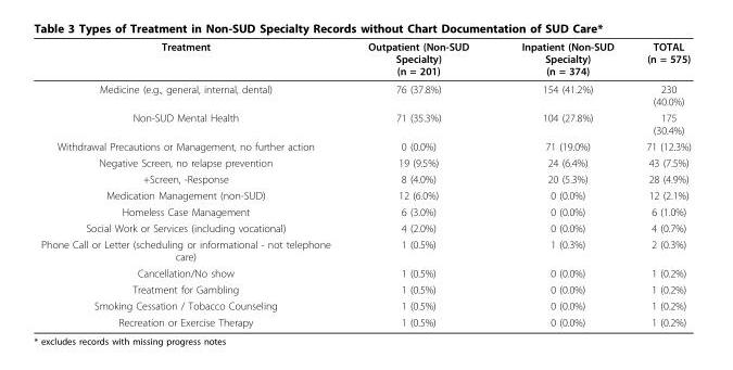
<table><thead><tr><td>Treatment</td><td>Outpatient (Non-SUD Specialty) (n = 201)</td><td>Inpatient (Non-SUD Specialty) (n = 374)</td><td>TOTAL (n = 575)</td></tr></thead><tbody><tr><td>Medicine (e.g., general, internal, dental)</td><td>76 (37.8%)</td><td>154 (41.2%)</td><td>230 (40.0%)</td></tr><tr><td>Non-SUD Mental Health</td><td>71 (35.3%)</td><td>104 (27.8%)</td><td>175 (30.4%)</td></tr><tr><td>Withdrawal Precautions or Management, no further action</td><td>0 (0.0%)</td><td>71 (19.0%)</td><td>71 (12.3%)</td></tr><tr><td>Negative Screen, no relapse prevention</td><td>19 (9.5%)</td><td>24 (6.4%)</td><td>43 (7.5%)</td></tr><tr><td>+Screen, -Response</td><td>8 (4.0%)</td><td>20 (5.3%)</td><td>28 (4.9%)</td></tr><tr><td>Medication Management (non-SUD)</td><td>12 (6.0%)</td><td>0 (0.0%)</td><td>12 (2.1%)</td></tr><tr><td>Homeless Case Management</td><td>6 (3.0%)</td><td>0 (0.0%)</td><td>6 (1.0%)</td></tr><tr><td>Social Work or Services (including vocational)</td><td>4 (2.0%)</td><td>0 (0.0%)</td><td>4 (0.7%)</td></tr><tr><td>Phone Call or Letter (scheduling or informational - not telephone care)</td><td>1 (0.5%)</td><td>1 (0.3%)</td><td>2 (0.3%)</td></tr><tr><td>Cancellation/No show</td><td>1 (0.5%)</td><td>0 (0.0%)</td><td>1 (0.2%)</td></tr><tr><td>Treatment for Gambling</td><td>1 (0.5%)</td><td>0 (0.0%)</td><td>1 (0.2%)</td></tr><tr><td>Smoking Cessation / Tobacco Counseling</td><td>1 (0.5%)</td><td>0 (0.0%)</td><td>1 (0.2%)</td></tr><tr><td>Recreation or Exercise Therapy</td><td>1 (0.5%)</td><td>0 (0.0%)</td><td>1 (0.2%)</td></tr></tbody></table>